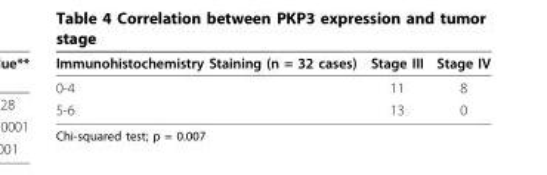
<table><thead><tr><td>Immunohistochemistry Staining (n = 32 cases)</td><td>Stage III</td><td>Stage IV</td></tr></thead><tbody><tr><td>0-4</td><td>11</td><td>8</td></tr><tr><td>5-6</td><td>13</td><td>0</td></tr></tbody></table>